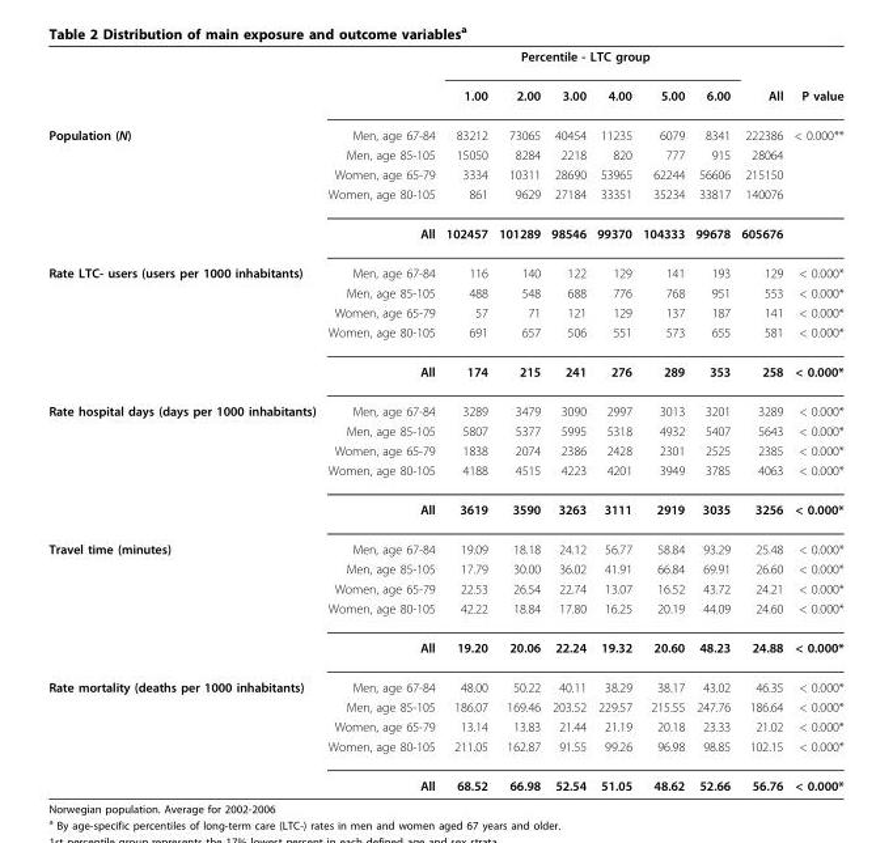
<table><thead><tr><td rowspan="2"></td><td colspan="9">Percentile - LTC group</td></tr><tr><td></td><td>1.00</td><td>2.00</td><td>3.00</td><td>4.00</td><td>5.00</td><td>6.00</td><td>All</td><td>P value</td></tr></thead><tbody><tr><td rowspan="5">Population (N)</td><td>Men, age 67-84</td><td>83212</td><td>73065</td><td>40454</td><td>11235</td><td>6079</td><td>8341</td><td>222386</td><td>&lt; 0.000**</td></tr><tr><td>Men, age 85-105</td><td>15050</td><td>8284</td><td>2218</td><td>820</td><td>777</td><td>915</td><td>28064</td><td></td></tr><tr><td>Women, age 65-79</td><td>3334</td><td>10311</td><td>28690</td><td>53965</td><td>62244</td><td>56606</td><td>215150</td><td></td></tr><tr><td>Women, age 80-105</td><td>861</td><td>9629</td><td>27184</td><td>33351</td><td>35234</td><td>33817</td><td>140076</td><td></td></tr><tr><td>All</td><td>102457</td><td>101289</td><td>98546</td><td>99370</td><td>104333</td><td>99678</td><td>605676</td><td></td></tr><tr><td rowspan="5">Rate LTC- users (users per 1000 inhabitants)</td><td>Men, age 67-84</td><td>116</td><td>140</td><td>122</td><td>129</td><td>141</td><td>193</td><td>129</td><td>&lt; 0.000*</td></tr><tr><td>Men, age 85-105</td><td>488</td><td>548</td><td>688</td><td>776</td><td>768</td><td>951</td><td>553</td><td>&lt; 0.000*</td></tr><tr><td>Women, age 65-79</td><td>57</td><td>71</td><td>121</td><td>129</td><td>137</td><td>187</td><td>141</td><td>&lt; 0.000*</td></tr><tr><td>Women, age 80-105</td><td>691</td><td>657</td><td>506</td><td>551</td><td>573</td><td>655</td><td>581</td><td>&lt; 0.000*</td></tr><tr><td>All</td><td>174</td><td>215</td><td>241</td><td>276</td><td>289</td><td>353</td><td>258</td><td>&lt; 0.000*</td></tr><tr><td rowspan="5">Rate hospital days (days per 1000 inhabitants)</td><td>Men, age 67-84</td><td>3289</td><td>3479</td><td>3090</td><td>2997</td><td>3013</td><td>3201</td><td>3289</td><td>&lt; 0.000*</td></tr><tr><td>Men, age 85-105</td><td>5807</td><td>5377</td><td>5995</td><td>5318</td><td>4932</td><td>5407</td><td>5643</td><td>&lt; 0.000*</td></tr><tr><td>Women, age 65-79</td><td>1838</td><td>2074</td><td>2386</td><td>2428</td><td>2301</td><td>2525</td><td>2385</td><td>&lt; 0.000*</td></tr><tr><td>Women, age 80-105</td><td>4188</td><td>4515</td><td>4223</td><td>4201</td><td>3949</td><td>3785</td><td>4063</td><td>&lt; 0.000*</td></tr><tr><td>All</td><td>3619</td><td>3590</td><td>3263</td><td>3111</td><td>2919</td><td>3035</td><td>3256</td><td>&lt; 0.000*</td></tr><tr><td rowspan="5">Travel time (minutes)</td><td>Men, age 67-84</td><td>19.09</td><td>18.18</td><td>24.12</td><td>56.77</td><td>58.84</td><td>93.29</td><td>25.48</td><td>&lt; 0.000*</td></tr><tr><td>Men, age 85-105</td><td>17.79</td><td>30.00</td><td>36.02</td><td>41.91</td><td>66.84</td><td>69.91</td><td>26.60</td><td>&lt; 0.000*</td></tr><tr><td>Women, age 65-79</td><td>22.53</td><td>26.54</td><td>22.74</td><td>13.07</td><td>16.52</td><td>43.72</td><td>24.21</td><td>&lt; 0.000*</td></tr><tr><td>Women, age 80-105</td><td>42.22</td><td>18.84</td><td>17.80</td><td>16.25</td><td>20.19</td><td>44.09</td><td>24.60</td><td>&lt; 0.000*</td></tr><tr><td>All</td><td>19.20</td><td>20.06</td><td>22.24</td><td>19.32</td><td>20.60</td><td>48.23</td><td>24.88</td><td>&lt; 0.000*</td></tr><tr><td rowspan="5">Rate mortality (deaths per 1000 inhabitants)</td><td>Men, age 67-84</td><td>48.00</td><td>50.22</td><td>40.11</td><td>38.29</td><td>38.17</td><td>43.02</td><td>46.35</td><td>&lt; 0.000*</td></tr><tr><td>Men, age 85-105</td><td>186.07</td><td>169.46</td><td>203.52</td><td>229.57</td><td>215.55</td><td>247.76</td><td>186.64</td><td>&lt; 0.000*</td></tr><tr><td>Women, age 65-79</td><td>13.14</td><td>13.83</td><td>21.44</td><td>21.19</td><td>20.18</td><td>23.33</td><td>21.02</td><td>&lt; 0.000*</td></tr><tr><td>Women, age 80-105</td><td>211.05</td><td>162.87</td><td>91.55</td><td>99.26</td><td>96.98</td><td>98.85</td><td>102.15</td><td>&lt; 0.000*</td></tr><tr><td>All</td><td>68.52</td><td>66.98</td><td>52.54</td><td>51.05</td><td>48.62</td><td>52.66</td><td>56.76</td><td>&lt; 0.000*</td></tr></tbody></table>